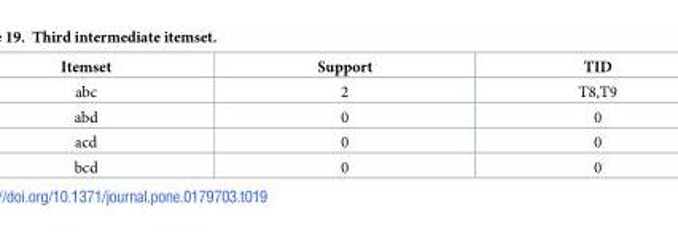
<table><thead><tr><td>Itemset</td><td>Support</td><td>TID</td></tr></thead><tbody><tr><td>abc</td><td>2</td><td>T8,T9</td></tr><tr><td>abd</td><td>0</td><td>0</td></tr><tr><td>acd</td><td>0</td><td>0</td></tr><tr><td>bcd</td><td>0</td><td>0</td></tr></tbody></table>